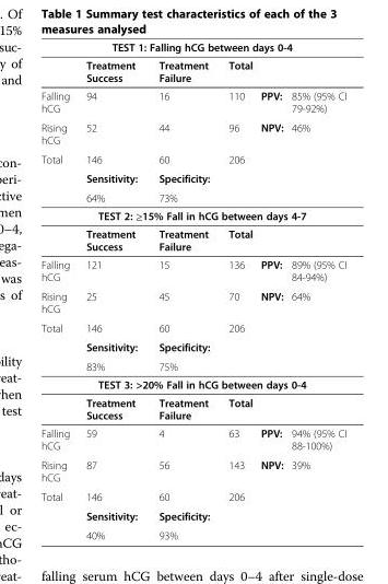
<table><thead><tr><td colspan="6">TEST 1: Falling hCG between days 0-4</td></tr><tr><td rowspan="2">Falling hCG</td><td rowspan="2">Treatment Success 94</td><td rowspan="2">Treatment Failure 16</td><td rowspan="2">Total 110</td><td colspan="2"></td></tr><tr><td>PPV:</td><td>85% (95% CI 79-92%)</td></tr></thead><tbody><tr><td>Rising hCG</td><td>52</td><td>44</td><td>96</td><td>NPV:</td><td>46%</td></tr><tr><td rowspan="3">Total</td><td>146</td><td>60</td><td>206</td><td colspan="2"></td></tr><tr><td>Sensitivity:</td><td>Specificity:</td><td></td><td colspan="2"></td></tr><tr><td>64%</td><td>73%</td><td></td><td></td><td></td></tr><tr><td colspan="6">TEST 2: ≥15% Fall in hCG between days 4-7</td></tr><tr><td></td><td>Treatment Success</td><td>Treatment Failure</td><td>Total</td><td colspan="2"></td></tr><tr><td>Falling hCG</td><td>121</td><td>15</td><td>136</td><td>PPV:</td><td>89% (95% CI 84-94%)</td></tr><tr><td>Rising hCG</td><td>25</td><td>45</td><td>70</td><td>NPV:</td><td>64%</td></tr><tr><td rowspan="3">Total</td><td>146</td><td>60</td><td>206</td><td colspan="2"></td></tr><tr><td>Sensitivity:</td><td>Specificity:</td><td></td><td colspan="2"></td></tr><tr><td>83%</td><td>75%</td><td></td><td></td><td></td></tr><tr><td colspan="6">TEST 3: &gt;20% Fall in hCG between days 0-4</td></tr><tr><td></td><td>Treatment Success</td><td>Treatment Failure</td><td>Total</td><td colspan="2"></td></tr><tr><td>Falling hCG</td><td>59</td><td>4</td><td>63</td><td>PPV:</td><td>94% (95% CI 88-100%)</td></tr><tr><td>Rising hCG</td><td>87</td><td>56</td><td>143</td><td>NPV:</td><td>39%</td></tr><tr><td rowspan="3">Total</td><td>146</td><td>60</td><td>206</td><td colspan="2"></td></tr><tr><td>Sensitivity:</td><td>Specificity:</td><td></td><td colspan="2"></td></tr><tr><td>40%</td><td>93%</td><td></td><td></td><td></td></tr></tbody></table>